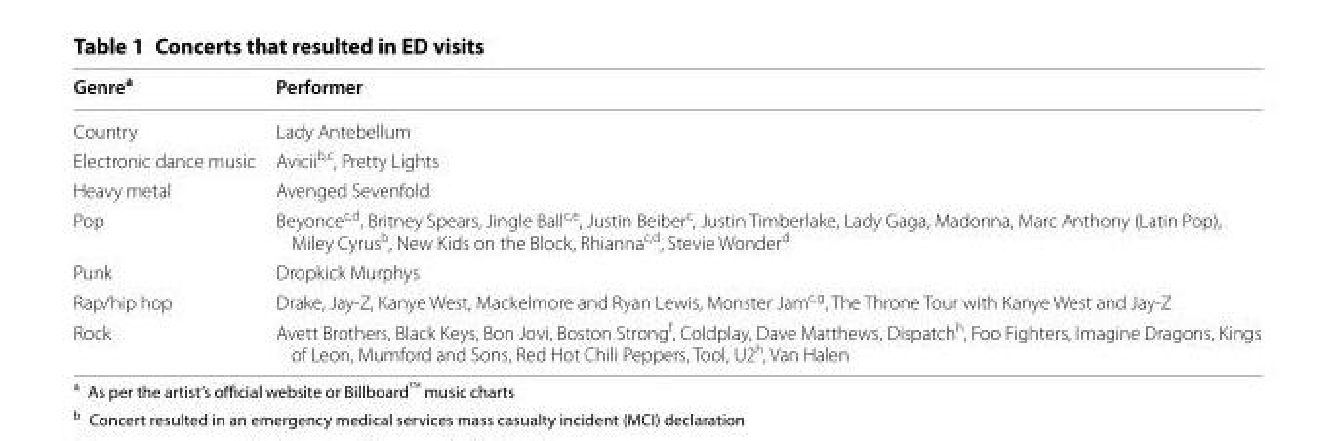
<table><thead><tr><td>Genre<sup>a</sup></td><td>Performer</td></tr></thead><tbody><tr><td>Country</td><td>Lady Antebellum</td></tr><tr><td>Electronic dance music</td><td>Avicii<sup>b,c</sup>, Pretty Lights</td></tr><tr><td>Heavy metal</td><td>Avenged Sevenfold</td></tr><tr><td>Pop</td><td>Beyonce<sup>c,d</sup>, Britney Spears, Jingle Ball<sup>c,e</sup>, Justin Beiber<sup>c</sup>, Justin Timberlake, Lady Gaga, Madonna, Marc Anthony (Latin Pop), Miley Cyrus<sup>b</sup>, New Kids on the Block, Rhianna<sup>c,d</sup>, Stevie Wonder<sup>d</sup></td></tr><tr><td>Punk</td><td>Dropkick Murphys</td></tr><tr><td>Rap/hip hop</td><td>Drake, Jay-Z, Kanye West, Mackelmore and Ryan Lewis, Monster Jam<sup>c,g</sup>, The Throne Tour with Kanye West and Jay-Z</td></tr><tr><td>Rock</td><td>Avett Brothers, Black Keys, Bon Jovi, Boston Strong<sup>f</sup>, Coldplay, Dave Matthews, Dispatch<sup>h</sup>, Foo Fighters, Imagine Dragons, Kings of Leon, Mumford and Sons, Red Hot Chili Peppers, Tool, U2<sup>h</sup>, Van Halen</td></tr></tbody></table>